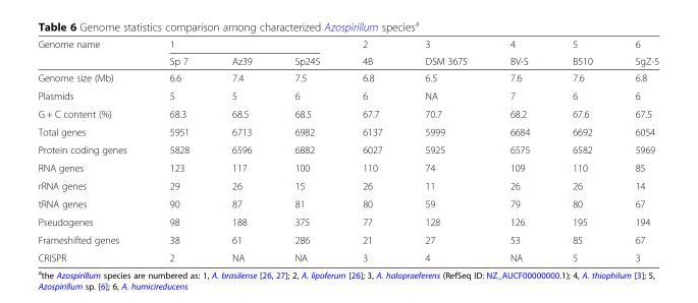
<table><thead><tr><td rowspan="2">Genome name</td><td colspan="3">1</td><td rowspan="2">2 4B</td><td rowspan="2">3 DSM 3675</td><td rowspan="2">4 BV-S</td><td rowspan="2">5 B510</td><td rowspan="2">6 SgZ-5</td></tr><tr><td>Sp 7</td><td>Az39</td><td>Sp245</td></tr></thead><tbody><tr><td>Genome size (Mb)</td><td>6.6</td><td>7.4</td><td>7.5</td><td>6.8</td><td>6.5</td><td>7.6</td><td>7.6</td><td>6.8</td></tr><tr><td>Plasmids</td><td>5</td><td>5</td><td>6</td><td>6</td><td>NA</td><td>7</td><td>6</td><td>6</td></tr><tr><td>G + C content (%)</td><td>68.3</td><td>68.5</td><td>68.5</td><td>67.7</td><td>70.7</td><td>68.2</td><td>67.6</td><td>67.5</td></tr><tr><td>Total genes</td><td>5951</td><td>6713</td><td>6982</td><td>6137</td><td>5999</td><td>6684</td><td>6692</td><td>6054</td></tr><tr><td>Protein coding genes</td><td>5828</td><td>6596</td><td>6882</td><td>6027</td><td>5925</td><td>6575</td><td>6582</td><td>5969</td></tr><tr><td>RNA genes</td><td>123</td><td>117</td><td>100</td><td>110</td><td>74</td><td>109</td><td>110</td><td>85</td></tr><tr><td>rRNA genes</td><td>29</td><td>26</td><td>15</td><td>26</td><td>11</td><td>26</td><td>26</td><td>14</td></tr><tr><td>tRNA genes</td><td>90</td><td>87</td><td>81</td><td>80</td><td>59</td><td>79</td><td>80</td><td>67</td></tr><tr><td>Pseudogenes</td><td>98</td><td>188</td><td>375</td><td>77</td><td>128</td><td>126</td><td>195</td><td>194</td></tr><tr><td>Frameshifted genes</td><td>38</td><td>61</td><td>286</td><td>21</td><td>27</td><td>53</td><td>85</td><td>67</td></tr><tr><td>CRISPR</td><td>2</td><td>NA</td><td>NA</td><td>3</td><td>4</td><td>NA</td><td>5</td><td>3</td></tr></tbody></table>